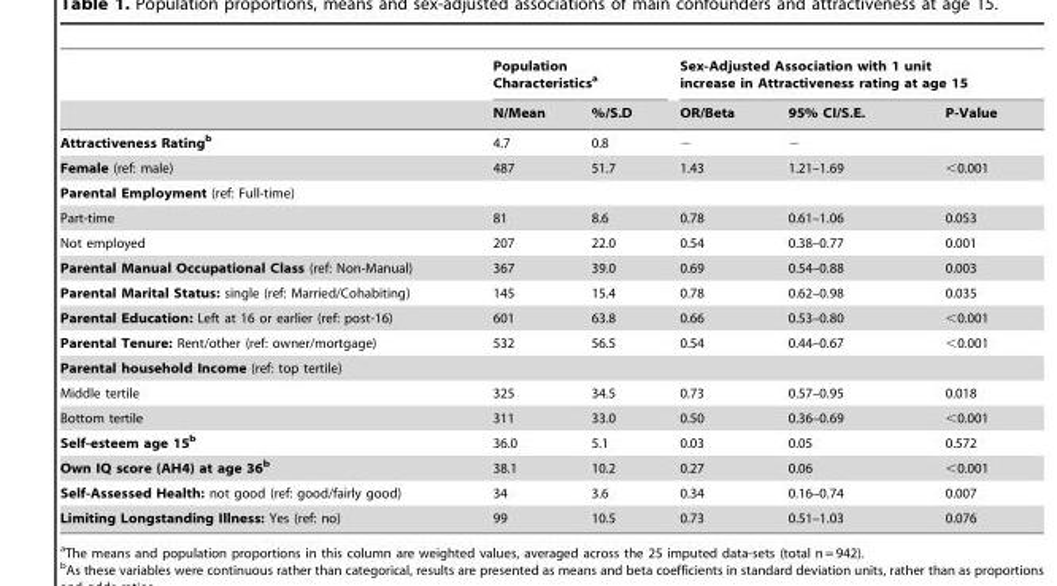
<table><thead><tr><td rowspan="2"></td><td colspan="2">Population Characteristics<sup>a</sup></td><td colspan="3">Sex-Adjusted Association with 1 unit increase in Attractiveness rating at age 15</td></tr><tr><td>N/Mean</td><td>%/S.D</td><td>OR/Beta</td><td>95% CI/S.E.</td><td>P-Value</td></tr></thead><tbody><tr><td>Attractiveness Ratingb</td><td>4.7</td><td>0.8</td><td>−</td><td>−</td><td></td></tr><tr><td>Female (ref: male)</td><td>487</td><td>51.7</td><td>1.43</td><td>1.21–1.69</td><td>&lt;0.001</td></tr><tr><td colspan="6">Parental Employment (ref: Full-time)</td></tr><tr><td>Part-time</td><td>81</td><td>8.6</td><td>0.78</td><td>0.61–1.06</td><td>0.053</td></tr><tr><td>Not employed</td><td>207</td><td>22.0</td><td>0.54</td><td>0.38–0.77</td><td>0.001</td></tr><tr><td>Parental Manual Occupational Class (ref: Non-Manual)</td><td>367</td><td>39.0</td><td>0.69</td><td>0.54–0.88</td><td>0.003</td></tr><tr><td>Parental Marital Status: single (ref: Married/Cohabiting)</td><td>145</td><td>15.4</td><td>0.78</td><td>0.62–0.98</td><td>0.035</td></tr><tr><td>Parental Education: Left at 16 or earlier (ref: post-16)</td><td>601</td><td>63.8</td><td>0.66</td><td>0.53–0.80</td><td>&lt;0.001</td></tr><tr><td>Parental Tenure: Rent/other (ref: owner/mortgage)</td><td>532</td><td>56.5</td><td>0.54</td><td>0.44–0.67</td><td>&lt;0.001</td></tr><tr><td colspan="6">Parental household Income (ref: top tertile)</td></tr><tr><td>Middle tertile</td><td>325</td><td>34.5</td><td>0.73</td><td>0.57–0.95</td><td>0.018</td></tr><tr><td>Bottom tertile</td><td>311</td><td>33.0</td><td>0.50</td><td>0.36–0.69</td><td>&lt;0.001</td></tr><tr><td>Self-esteem age 15b</td><td>36.0</td><td>5.1</td><td>0.03</td><td>0.05</td><td>0.572</td></tr><tr><td>Own IQ score (AH4) at age 36b</td><td>38.1</td><td>10.2</td><td>0.27</td><td>0.06</td><td>&lt;0.001</td></tr><tr><td>Self-Assessed Health: not good (ref: good/fairly good)</td><td>34</td><td>3.6</td><td>0.34</td><td>0.16–0.74</td><td>0.007</td></tr><tr><td>Limiting Longstanding Illness: Yes (ref: no)</td><td>99</td><td>10.5</td><td>0.73</td><td>0.51–1.03</td><td>0.076</td></tr></tbody></table>